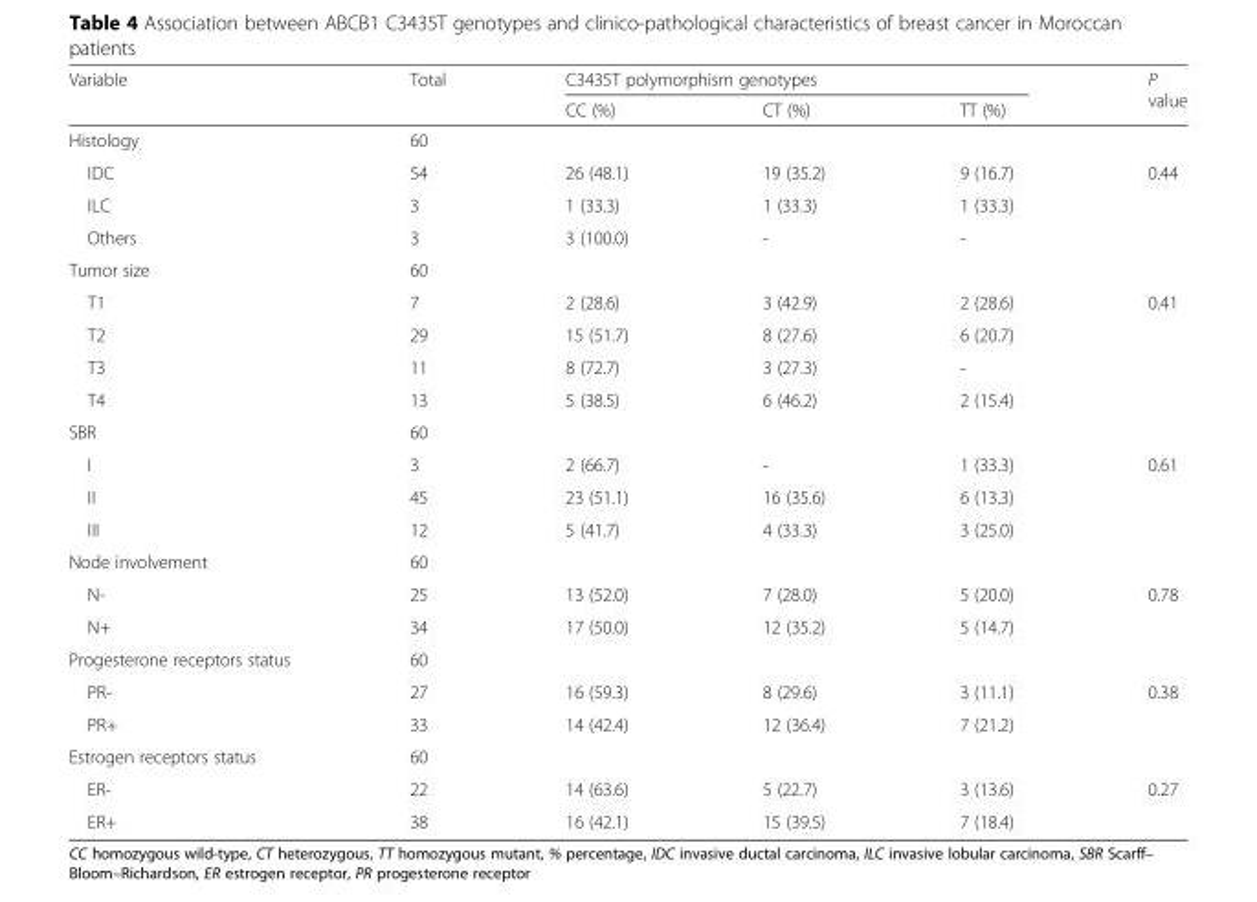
<table><thead><tr><td rowspan="2">Variable</td><td rowspan="2">Total</td><td colspan="3">C3435T polymorphism genotypes</td><td rowspan="2">P value</td></tr><tr><td>CC (%)</td><td>CT (%)</td><td>TT (%)</td></tr></thead><tbody><tr><td>Histology</td><td>60</td><td></td><td></td><td></td><td></td></tr><tr><td>IDC</td><td>54</td><td>26 (48.1)</td><td>19 (35.2)</td><td>9 (16.7)</td><td rowspan="3">0.44</td></tr><tr><td>ILC</td><td>3</td><td>1 (33.3)</td><td>1 (33.3)</td><td>1 (33.3)</td></tr><tr><td>Others</td><td>3</td><td>3 (100.0)</td><td>-</td><td>-</td></tr><tr><td>Tumor size</td><td>60</td><td></td><td></td><td></td><td></td></tr><tr><td>T1</td><td>7</td><td>2 (28.6)</td><td>3 (42.9)</td><td>2 (28.6)</td><td rowspan="4">0.41</td></tr><tr><td>T2</td><td>29</td><td>15 (51.7)</td><td>8 (27.6)</td><td>6 (20.7)</td></tr><tr><td>T3</td><td>11</td><td>8 (72.7)</td><td>3 (27.3)</td><td>-</td></tr><tr><td>T4</td><td>13</td><td>5 (38.5)</td><td>6 (46.2)</td><td>2 (15.4)</td></tr><tr><td>SBR</td><td>60</td><td></td><td></td><td></td><td></td></tr><tr><td>I</td><td>3</td><td>2 (66.7)</td><td>-</td><td>1 (33.3)</td><td rowspan="3">0.61</td></tr><tr><td>II</td><td>45</td><td>23 (51.1)</td><td>16 (35.6)</td><td>6 (13.3)</td></tr><tr><td>III</td><td>12</td><td>5 (41.7)</td><td>4 (33.3)</td><td>3 (25.0)</td></tr><tr><td>Node involvement</td><td>60</td><td></td><td></td><td></td><td></td></tr><tr><td>N-</td><td>25</td><td>13 (52.0)</td><td>7 (28.0)</td><td>5 (20.0)</td><td rowspan="2">0.78</td></tr><tr><td>N+</td><td>34</td><td>17 (50.0)</td><td>12 (35.2)</td><td>5 (14.7)</td></tr><tr><td>Progesterone receptors status</td><td>60</td><td></td><td></td><td></td><td></td></tr><tr><td>PR-</td><td>27</td><td>16 (59.3)</td><td>8 (29.6)</td><td>3 (11.1)</td><td rowspan="2">0.38</td></tr><tr><td>PR+</td><td>33</td><td>14 (42.4)</td><td>12 (36.4)</td><td>7 (21.2)</td></tr><tr><td>Estrogen receptors status</td><td>60</td><td></td><td></td><td></td><td></td></tr><tr><td>ER-</td><td>22</td><td>14 (63.6)</td><td>5 (22.7)</td><td>3 (13.6)</td><td rowspan="2">0.27</td></tr><tr><td>ER+</td><td>38</td><td>16 (42.1)</td><td>15 (39.5)</td><td>7 (18.4)</td></tr></tbody></table>